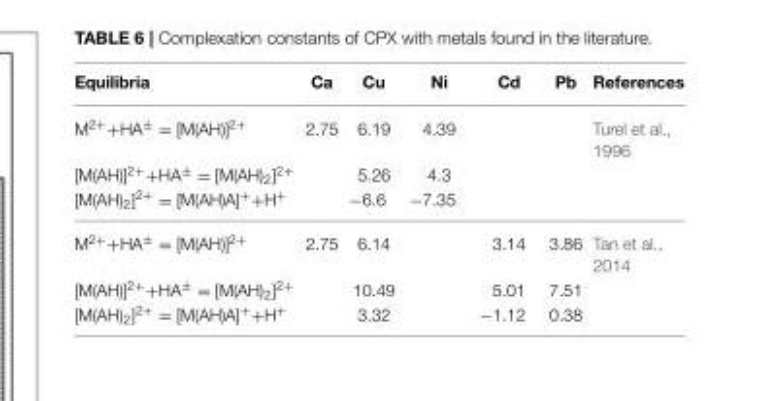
<table><thead><tr><td>Equilibria</td><td>Ca</td><td>Cu</td><td>Ni</td><td>Cd</td><td>Pb</td><td>References</td></tr></thead><tbody><tr><td>M<sup>2+</sup>+HA<sup>±</sup> = [M(AH)]<sup>2+</sup></td><td>2.75</td><td>6.19</td><td>4.39</td><td></td><td></td><td>Turel et al., 1996</td></tr><tr><td>[M(AH)]<sup>2+</sup>+HA<sup>±</sup> = [M(AH)<sub>2</sub>]<sup>2+</sup></td><td></td><td>5.26</td><td>4.3</td><td></td><td></td><td></td></tr><tr><td>[M(AH)<sub>2</sub>]<sup>2+</sup> = [M(AH)A]<sup>+</sup>+H<sup>+</sup></td><td></td><td>−6.6</td><td>−7.35</td><td></td><td></td><td></td></tr><tr><td>M<sup>2+</sup>+HA<sup>±</sup> = [M(AH)]<sup>2+</sup></td><td>2.75</td><td>6.14</td><td></td><td>3.14</td><td>3.86</td><td>Tan et al., 2014</td></tr><tr><td>[M(AH)]<sup>2+</sup>+HA<sup>±</sup> = [M(AH)<sub>2</sub>]<sup>2+</sup></td><td></td><td>10.49</td><td></td><td>5.01</td><td>7.51</td><td></td></tr><tr><td>[M(AH)<sub>2</sub>]<sup>2+</sup> = [M(AH)A]<sup>+</sup>+H<sup>+</sup></td><td></td><td>3.32</td><td></td><td>−1.12</td><td>0.38</td><td></td></tr></tbody></table>